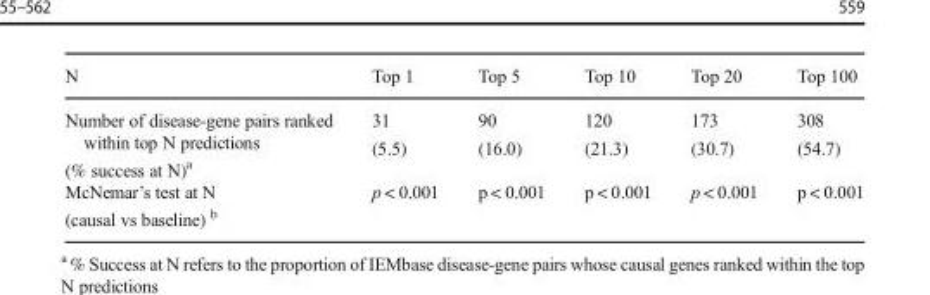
<table><thead><tr><td>N</td><td>Top 1</td><td>Top 5</td><td>Top 10</td><td>Top 20</td><td>Top 100</td></tr></thead><tbody><tr><td>Number of disease-gene pairs ranked within top N predictions (% success at N)<sup>a</sup></td><td>31 (5.5)</td><td>90 (16.0)</td><td>120 (21.3)</td><td>173 (30.7)</td><td>308 (54.7)</td></tr><tr><td>McNemar’s test at N (causal vs baseline) <sup>b</sup></td><td>p &lt; 0.001</td><td>p &lt; 0.001</td><td>p &lt; 0.001</td><td>p &lt; 0.001</td><td>p &lt; 0.001</td></tr></tbody></table>